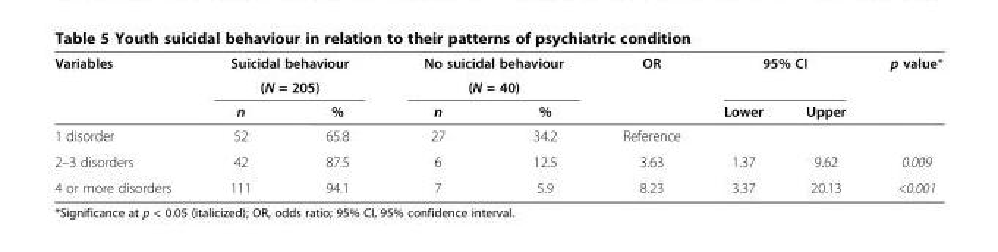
<table><thead><tr><td rowspan="3">Variables</td><td rowspan="2" colspan="2">Suicidal behaviour (N = 205)</td><td rowspan="2" colspan="2">No suicidal behaviour (N = 40)</td><td rowspan="3">OR</td><td colspan="2">95% CI</td><td rowspan="3">p value*</td></tr><tr><td rowspan="2">Lower</td><td rowspan="2">Upper</td></tr><tr><td>n</td><td>%</td><td>n</td><td>%</td></tr></thead><tbody><tr><td>1 disorder</td><td>52</td><td>65.8</td><td>27</td><td>34.2</td><td>Reference</td><td></td><td></td><td></td></tr><tr><td>2–3 disorders</td><td>42</td><td>87.5</td><td>6</td><td>12.5</td><td>3.63</td><td>1.37</td><td>9.62</td><td>0.009</td></tr><tr><td>4 or more disorders</td><td>111</td><td>94.1</td><td>7</td><td>5.9</td><td>8.23</td><td>3.37</td><td>20.13</td><td>&lt;0.001</td></tr></tbody></table>